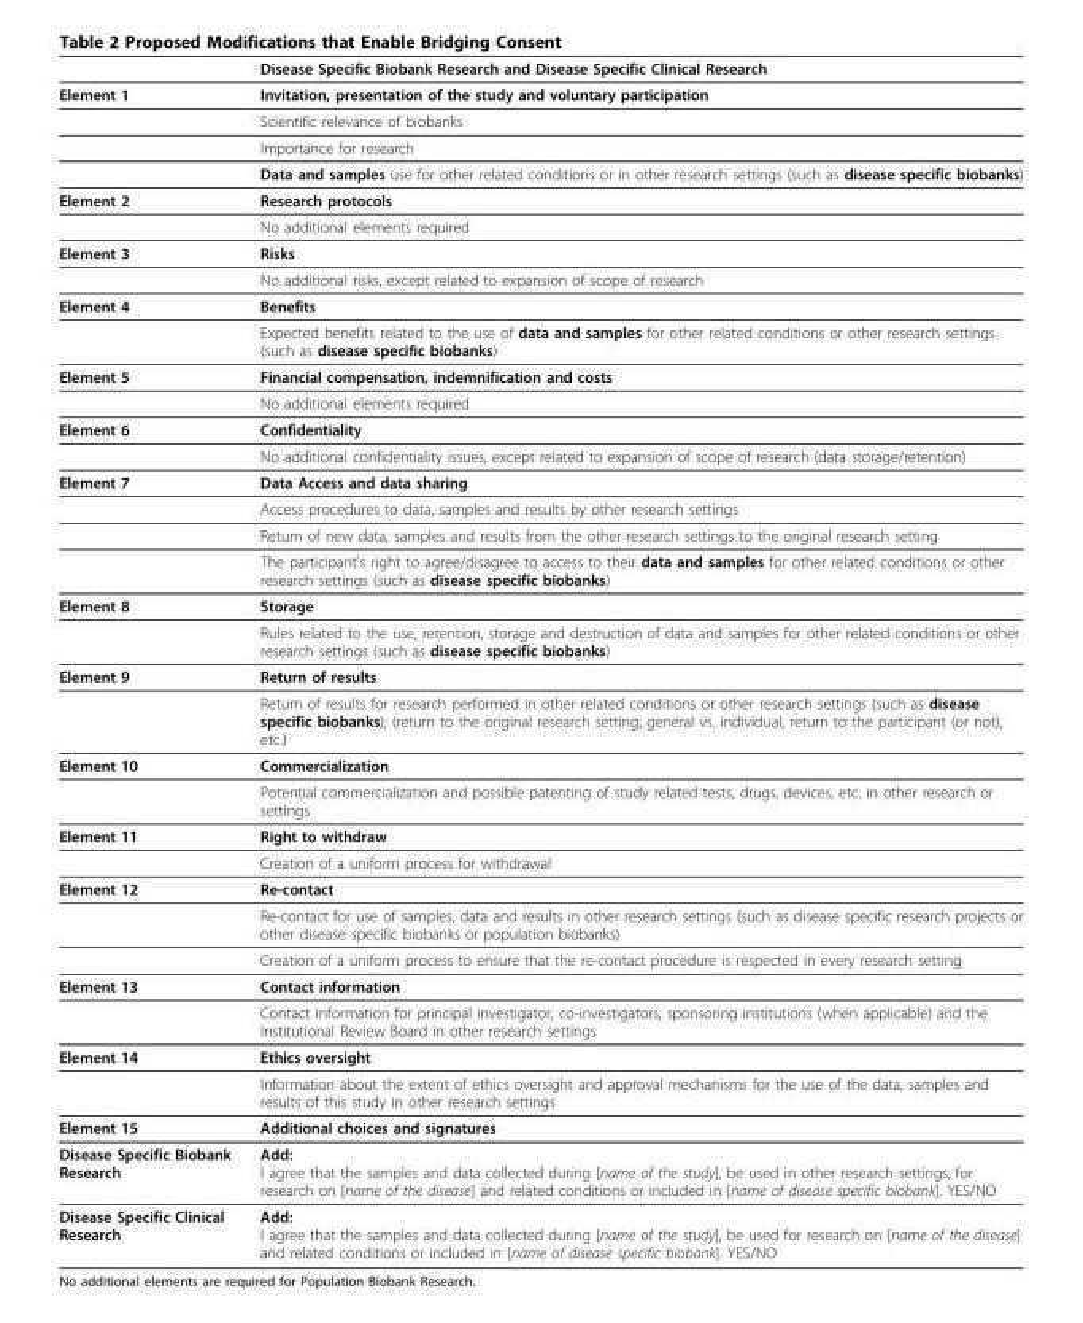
<table><thead><tr><td></td><td>Disease Specific Biobank Research and Disease Specific Clinical Research</td></tr></thead><tbody><tr><td rowspan="4">Element 1</td><td>Invitation, presentation of the study and voluntary participation</td></tr><tr><td>Scientific relevance of biobanks</td></tr><tr><td>Importance for research</td></tr><tr><td>Data and samples use for other related conditions or in other research settings (such as disease specific biobanks)</td></tr><tr><td rowspan="2">Element 2</td><td>Research protocols</td></tr><tr><td>No additional elements required</td></tr><tr><td rowspan="2">Element 3</td><td>Risks</td></tr><tr><td>No additional risks, except related to expansion of scope of research</td></tr><tr><td rowspan="2">Element 4</td><td>Benefits</td></tr><tr><td>Expected benefits related to the use of data and samples for other related conditions or other research settings (such as disease specific biobanks)</td></tr><tr><td rowspan="2">Element 5</td><td>Financial compensation, indemnification and costs</td></tr><tr><td>No additional elements required</td></tr><tr><td rowspan="2">Element 6</td><td>Confidentiality</td></tr><tr><td>No additional confidentiality issues, except related to expansion of scope of research (data storage/retention)</td></tr><tr><td rowspan="4">Element 7</td><td>Data Access and data sharing</td></tr><tr><td>Access procedures to data, samples and results by other research settings</td></tr><tr><td>Return of new data, samples and results from the other research settings to the original research setting</td></tr><tr><td>The participant’s right to agree/disagree to access to their data and samples for other related conditions or other research settings (such as disease specific biobanks)</td></tr><tr><td rowspan="2">Element 8</td><td>Storage</td></tr><tr><td>Rules related to the use, retention, storage and destruction of data and samples for other related conditions or other research settings (such as disease specific biobanks)</td></tr><tr><td rowspan="2">Element 9</td><td>Return of results</td></tr><tr><td>Return of results for research performed in other related conditions or other research settings (such as disease specific biobanks); (return to the original research setting, general vs. individual, return to the participant (or not), etc.)</td></tr><tr><td rowspan="2">Element 10</td><td>Commercialization</td></tr><tr><td>Potential commercialization and possible patenting of study related tests, drugs, devices, etc. in other research or settings</td></tr><tr><td rowspan="2">Element 11</td><td>Right to withdraw</td></tr><tr><td>Creation of a uniform process for withdrawal</td></tr><tr><td rowspan="3">Element 12</td><td>Re-contact</td></tr><tr><td>Re-contact for use of samples, data and results in other research settings (such as disease specific research projects or other disease specific biobanks or population biobanks)</td></tr><tr><td>Creation of a uniform process to ensure that the re-contact procedure is respected in every research setting</td></tr><tr><td rowspan="2">Element 13</td><td>Contact information</td></tr><tr><td>Contact information for principal investigator, co-investigators, sponsoring institutions (when applicable) and the Institutional Review Board in other research settings</td></tr><tr><td rowspan="2">Element 14</td><td>Ethics oversight</td></tr><tr><td>Information about the extent of ethics oversight and approval mechanisms for the use of the data, samples and results of this study in other research settings</td></tr><tr><td>Element 15</td><td>Additional choices and signatures</td></tr><tr><td>Disease Specific Biobank Research</td><td>Add: I agree that the samples and data collected during [name of the study], be used in other research settings, for research on [name of the disease] and related conditions or included in [name of disease specific biobank]. YES/NO</td></tr><tr><td>Disease Specific Clinical Research</td><td>Add: I agree that the samples and data collected during [name of the study], be used for research on [name of the disease] and related conditions or included in [name of disease specific biobank]. YES/NO</td></tr></tbody></table>